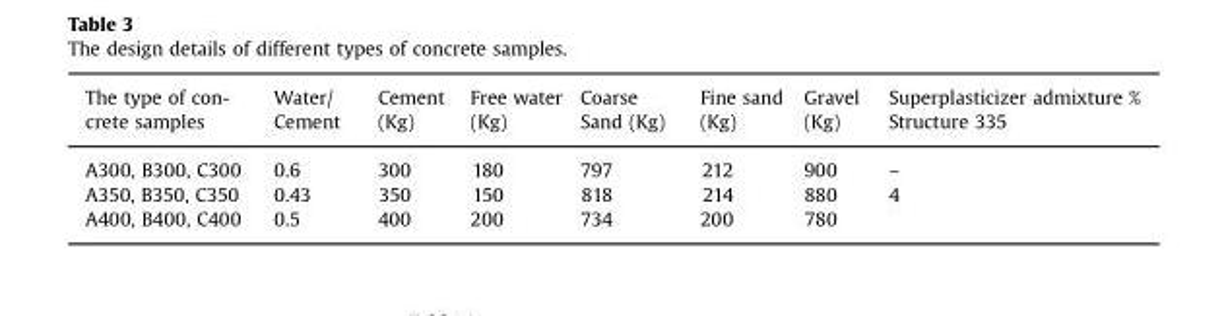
<table><thead><tr><td>The type of con- crete samples</td><td>Water/ Cement</td><td>Cement (Kg)</td><td>Free water (Kg)</td><td>Coarse Sand (Kg)</td><td>Fine sand (Kg)</td><td>Gravel (Kg)</td><td>Superplasticizer admixture % Structure 335</td></tr></thead><tbody><tr><td>A300, B300, C300</td><td>0.6</td><td>300</td><td>180</td><td>797</td><td>212</td><td>900</td><td>–</td></tr><tr><td>A350, B350, C350</td><td>0.43</td><td>350</td><td>150</td><td>818</td><td>214</td><td>880</td><td>4</td></tr><tr><td>A400, B400, C400</td><td>0.5</td><td>400</td><td>200</td><td>734</td><td>200</td><td>780</td><td></td></tr></tbody></table>